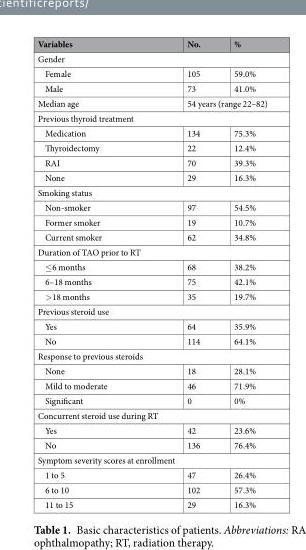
<table><thead><tr><td>Variables</td><td>No.</td><td>%</td></tr></thead><tbody><tr><td colspan="3">Gender</td></tr><tr><td>Female</td><td>105</td><td>59.0%</td></tr><tr><td>Male</td><td>73</td><td>41.0%</td></tr><tr><td>Median age</td><td colspan="2">54 years (range 22–82)</td></tr><tr><td colspan="3">Previous thyroid treatment</td></tr><tr><td>Medication</td><td>134</td><td>75.3%</td></tr><tr><td>Thyroidectomy</td><td>22</td><td>12.4%</td></tr><tr><td>RAI</td><td>70</td><td>39.3%</td></tr><tr><td>None</td><td>29</td><td>16.3%</td></tr><tr><td colspan="3">Smoking status</td></tr><tr><td>Non-smoker</td><td>97</td><td>54.5%</td></tr><tr><td>Former smoker</td><td>19</td><td>10.7%</td></tr><tr><td>Current smoker</td><td>62</td><td>34.8%</td></tr><tr><td colspan="3">Duration of TAO prior to RT</td></tr><tr><td>≤6 months</td><td>68</td><td>38.2%</td></tr><tr><td>6–18 months</td><td>75</td><td>42.1%</td></tr><tr><td>&gt;18 months</td><td>35</td><td>19.7%</td></tr><tr><td colspan="3">Previous steroid use</td></tr><tr><td>Yes</td><td>64</td><td>35.9%</td></tr><tr><td>No</td><td>114</td><td>64.1%</td></tr><tr><td colspan="3">Response to previous steroids</td></tr><tr><td>None</td><td>18</td><td>28.1%</td></tr><tr><td>Mild to moderate</td><td>46</td><td>71.9%</td></tr><tr><td>Significant</td><td>0</td><td>0%</td></tr><tr><td colspan="3">Concurrent steroid use during RT</td></tr><tr><td>Yes</td><td>42</td><td>23.6%</td></tr><tr><td>No</td><td>136</td><td>76.4%</td></tr><tr><td colspan="3">Symptom severity scores at enrollment</td></tr><tr><td>1 to 5</td><td>47</td><td>26.4%</td></tr><tr><td>6 to 10</td><td>102</td><td>57.3%</td></tr><tr><td>11 to 15</td><td>29</td><td>16.3%</td></tr></tbody></table>